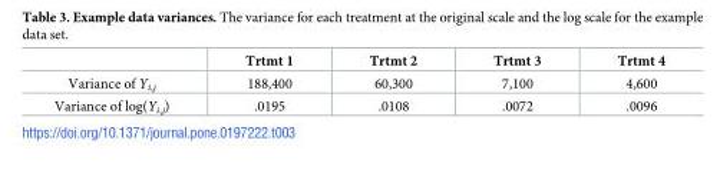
<table><thead><tr><td></td><td>Trtmt 1</td><td>Trtmt 2</td><td>Trtmt 3</td><td>Trtmt 4</td></tr></thead><tbody><tr><td>Variance of Y<sub>i,j</sub></td><td>188,400</td><td>60,300</td><td>7,100</td><td>4,600</td></tr><tr><td>Variance of log(Y<sub>i,j</sub>)</td><td>.0195</td><td>.0108</td><td>.0072</td><td>.0096</td></tr></tbody></table>